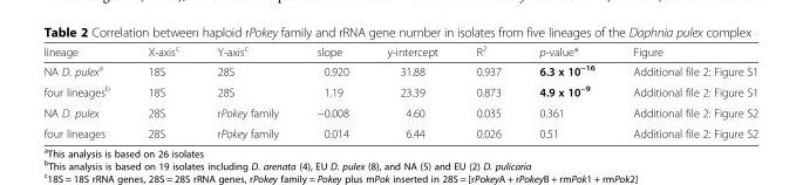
<table><thead><tr><td>lineage</td><td>X-axis<sup>c</sup></td><td>Y-axis<sup>c</sup></td><td>slope</td><td>y-intercept</td><td>R<sup>2</sup></td><td>p-value*</td><td>Figure</td></tr></thead><tbody><tr><td>NA D. pulex<sup>a</sup></td><td>18S</td><td>28S</td><td>0.920</td><td>31.88</td><td>0.937</td><td>6.3 x 10<sup>−16</sup></td><td>Additional file 2: Figure S1</td></tr><tr><td>four lineages<sup>b</sup></td><td>18S</td><td>28S</td><td>1.19</td><td>23.39</td><td>0.873</td><td>4.9 x 10<sup>−9</sup></td><td>Additional file 2: Figure S1</td></tr><tr><td>NA D. pulex</td><td>28S</td><td>rPokey family</td><td>−0.008</td><td>4.60</td><td>0.035</td><td>0.361</td><td>Additional file 2: Figure S2</td></tr><tr><td>four lineages</td><td>28S</td><td>rPokey family</td><td>0.014</td><td>6.44</td><td>0.026</td><td>0.51</td><td>Additional file 2: Figure S2</td></tr></tbody></table>